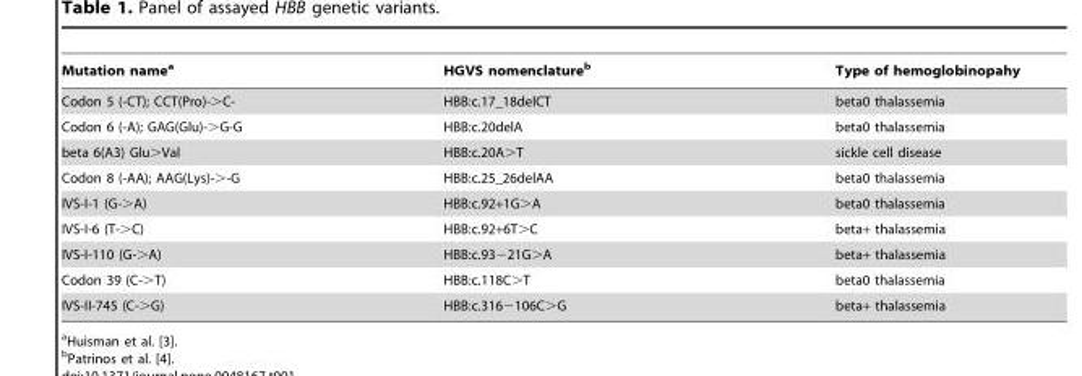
<table><thead><tr><td>Mutation name<sup>a</sup></td><td>HGVS nomenclature<sup>b</sup></td><td>Type of hemoglobinopahy</td></tr></thead><tbody><tr><td>Codon 5 (-CT); CCT(Pro)-&gt;C-</td><td>HBB:c.17_18delCT</td><td>beta0 thalassemia</td></tr><tr><td>Codon 6 (-A); GAG(Glu)-&gt;G-G</td><td>HBB:c.20delA</td><td>beta0 thalassemia</td></tr><tr><td>beta 6(A3) Glu&gt;Val</td><td>HBB:c.20A&gt;T</td><td>sickle cell disease</td></tr><tr><td>Codon 8 (-AA); AAG(Lys)-&gt;-G</td><td>HBB:c.25_26delAA</td><td>beta0 thalassemia</td></tr><tr><td>IVS-I-1 (G-&gt;A)</td><td>HBB:c.92+1G&gt;A</td><td>beta0 thalassemia</td></tr><tr><td>IVS-I-6 (T-&gt;C)</td><td>HBB:c.92+6T&gt;C</td><td>beta+ thalassemia</td></tr><tr><td>IVS-I-110 (G-&gt;A)</td><td>HBB:c.93−21G&gt;A</td><td>beta+ thalassemia</td></tr><tr><td>Codon 39 (C-&gt;T)</td><td>HBB:c.118C&gt;T</td><td>beta0 thalassemia</td></tr><tr><td>IVS-II-745 (C-&gt;G)</td><td>HBB:c.316−106C&gt;G</td><td>beta+ thalassemia</td></tr></tbody></table>